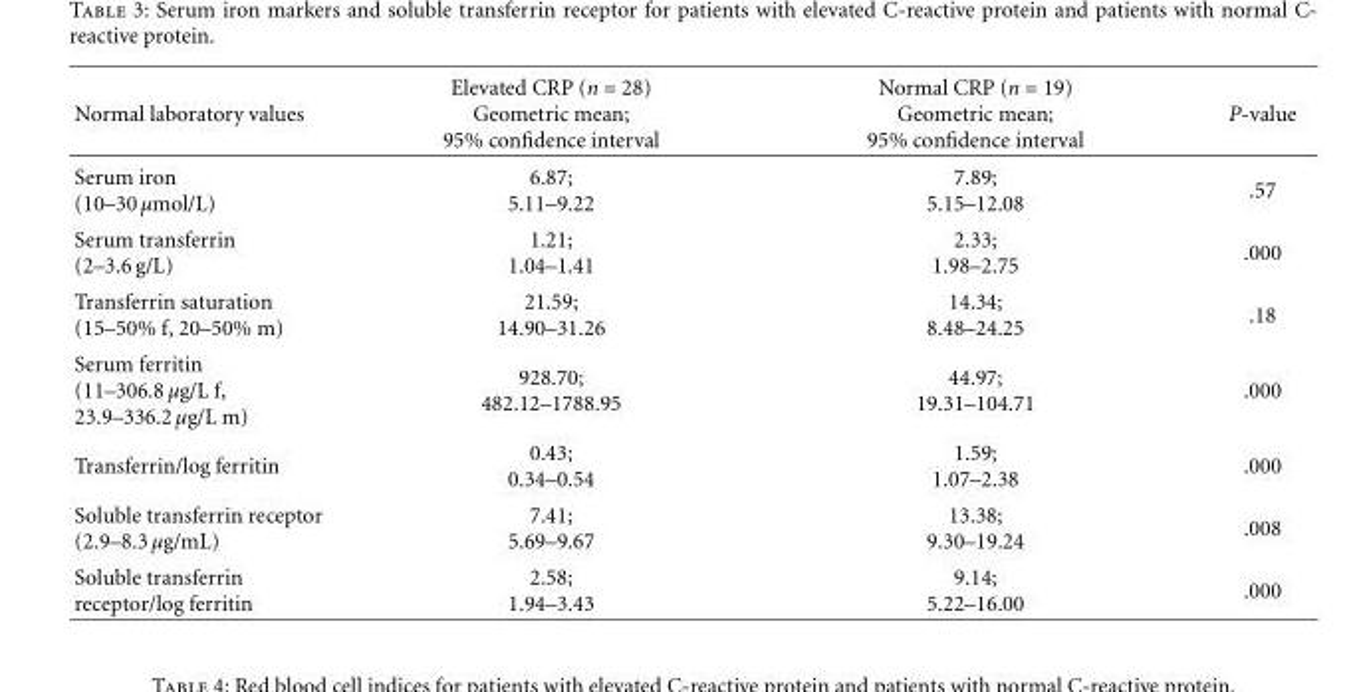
<table><thead><tr><td>Normal laboratory values</td><td>Elevated CRP (n = 28) Geometric mean; 95% confidence interval</td><td>Normal CRP (n = 19) Geometric mean; 95% confidence interval</td><td>P-value</td></tr></thead><tbody><tr><td>Serum iron (10–30 μmol/L)</td><td>6.87; 5.11–9.22</td><td>7.89; 5.15–12.08</td><td>.57</td></tr><tr><td>Serum transferrin (2–3.6 g/L)</td><td>1.21; 1.04–1.41</td><td>2.33; 1.98–2.75</td><td>.000</td></tr><tr><td>Transferrin saturation (15–50% f, 20–50% m)</td><td>21.59; 14.90–31.26</td><td>14.34; 8.48–24.25</td><td>.18</td></tr><tr><td>Serum ferritin (11–306.8 μg/L f, 23.9–336.2 μg/L m)</td><td>928.70; 482.12–1788.95</td><td>44.97; 19.31–104.71</td><td>.000</td></tr><tr><td>Transferrin/log ferritin</td><td>0.43; 0.34–0.54</td><td>1.59; 1.07–2.38</td><td>.000</td></tr><tr><td>Soluble transferrin receptor (2.9–8.3 μg/mL)</td><td>7.41; 5.69–9.67</td><td>13.38; 9.30–19.24</td><td>.008</td></tr><tr><td>Soluble transferrin receptor/log ferritin</td><td>2.58; 1.94–3.43</td><td>9.14; 5.22–16.00</td><td>.000</td></tr></tbody></table>